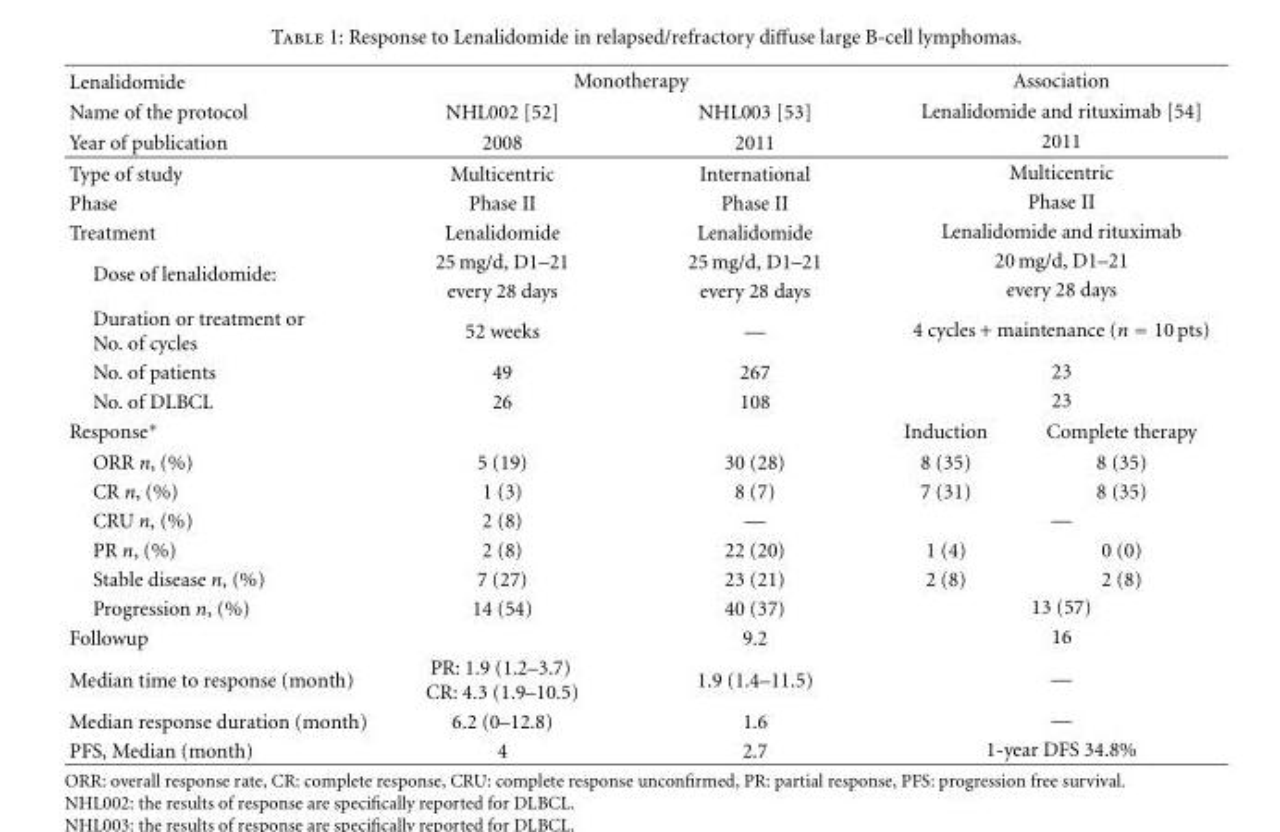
<table><thead><tr><td rowspan="3">Lenalidomide Name of the protocol Year of publication</td><td colspan="2">Monotherapy</td><td rowspan="3" colspan="2">Association Lenalidomide and rituximab [54] 2011</td></tr><tr><td rowspan="2">NHL002 [52] 2008</td><td rowspan="2">NHL003 [53] 2011</td></tr><tr></tr></thead><tbody><tr><td>Type of study</td><td>Multicentric</td><td>International</td><td colspan="2">Multicentric</td></tr><tr><td>Phase</td><td>Phase II</td><td>Phase II</td><td colspan="2">Phase II</td></tr><tr><td>Treatment</td><td>Lenalidomide</td><td>Lenalidomide</td><td colspan="2">Lenalidomide and rituximab</td></tr><tr><td rowspan="2">Dose of lenalidomide:</td><td>25 mg/d, D1–21</td><td>25 mg/d, D1–21</td><td colspan="2">20 mg/d, D1–21</td></tr><tr><td>every 28 days</td><td>every 28 days</td><td colspan="2">every 28 days</td></tr><tr><td>Duration or treatment or No. of cycles</td><td>52 weeks</td><td>—</td><td colspan="2">4 cycles + maintenance (n = 10 pts)</td></tr><tr><td>No. of patients</td><td>49</td><td>267</td><td colspan="2">23</td></tr><tr><td>No. of DLBCL</td><td>26</td><td>108</td><td colspan="2">23</td></tr><tr><td>Response∗</td><td></td><td></td><td>Induction</td><td>Complete therapy</td></tr><tr><td>ORR n, (%)</td><td>5 (19)</td><td>30 (28)</td><td>8 (35)</td><td>8 (35)</td></tr><tr><td>CR n, (%)</td><td>1 (3)</td><td>8 (7)</td><td>7 (31)</td><td>8 (35)</td></tr><tr><td>CRU n, (%)</td><td>2 (8)</td><td>—</td><td colspan="2">—</td></tr><tr><td>PR n, (%)</td><td>2 (8)</td><td>22 (20)</td><td>1 (4)</td><td>0 (0)</td></tr><tr><td>Stable disease n, (%)</td><td>7 (27)</td><td>23 (21)</td><td>2 (8)</td><td>2 (8)</td></tr><tr><td>Progression n, (%)</td><td>14 (54)</td><td>40 (37)</td><td colspan="2">13 (57)</td></tr><tr><td>Followup</td><td></td><td>9.2</td><td colspan="2">16</td></tr><tr><td>Median time to response (month)</td><td>PR: 1.9 (1.2–3.7) CR: 4.3 (1.9–10.5)</td><td>1.9 (1.4–11.5)</td><td colspan="2">—</td></tr><tr><td>Median response duration (month)</td><td>6.2 (0–12.8)</td><td>1.6</td><td colspan="2">—</td></tr><tr><td>PFS, Median (month)</td><td>4</td><td>2.7</td><td colspan="2">1-year DFS 34.8%</td></tr></tbody></table>